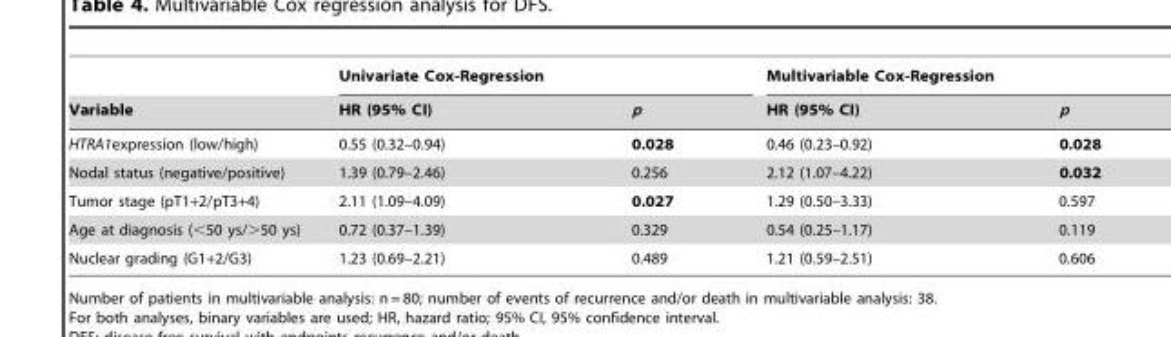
<table><thead><tr><td rowspan="2">Variable</td><td colspan="2">Univariate Cox-Regression</td><td colspan="2">Multivariable Cox-Regression</td></tr><tr><td>HR (95% CI)</td><td>p</td><td>HR (95% CI)</td><td>p</td></tr></thead><tbody><tr><td>HTRA1expression (low/high)</td><td>0.55 (0.32–0.94)</td><td>0.028</td><td>0.46 (0.23–0.92)</td><td>0.028</td></tr><tr><td>Nodal status (negative/positive)</td><td>1.39 (0.79–2.46)</td><td>0.256</td><td>2.12 (1.07–4.22)</td><td>0.032</td></tr><tr><td>Tumor stage (pT1+2/pT3+4)</td><td>2.11 (1.09–4.09)</td><td>0.027</td><td>1.29 (0.50–3.33)</td><td>0.597</td></tr><tr><td>Age at diagnosis (&lt;50 ys/&gt;50 ys)</td><td>0.72 (0.37–1.39)</td><td>0.329</td><td>0.54 (0.25–1.17)</td><td>0.119</td></tr><tr><td>Nuclear grading (G1+2/G3)</td><td>1.23 (0.69–2.21)</td><td>0.489</td><td>1.21 (0.59–2.51)</td><td>0.606</td></tr></tbody></table>